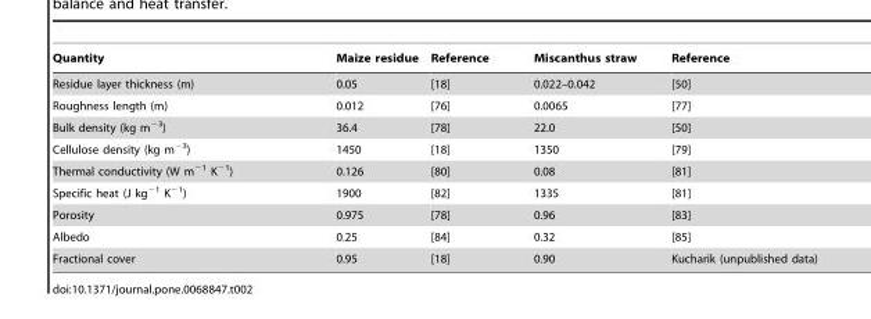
<table><thead><tr><td>Quantity</td><td>Maize residue</td><td>Reference</td><td>Miscanthus straw</td><td>Reference</td></tr></thead><tbody><tr><td>Residue layer thickness (m)</td><td>0.05</td><td>[18]</td><td>0.022–0.042</td><td>[50]</td></tr><tr><td>Roughness length (m)</td><td>0.012</td><td>[76]</td><td>0.0065</td><td>[77]</td></tr><tr><td>Bulk density (kg m<sup>−3</sup>)</td><td>36.4</td><td>[78]</td><td>22.0</td><td>[50]</td></tr><tr><td>Cellulose density (kg m<sup>−3</sup>)</td><td>1450</td><td>[18]</td><td>1350</td><td>[79]</td></tr><tr><td>Thermal conductivity (W m<sup>−1</sup> K<sup>−1</sup>)</td><td>0.126</td><td>[80]</td><td>0.08</td><td>[81]</td></tr><tr><td>Specific heat (J kg<sup>−1</sup> K<sup>−1</sup>)</td><td>1900</td><td>[82]</td><td>1335</td><td>[81]</td></tr><tr><td>Porosity</td><td>0.975</td><td>[78]</td><td>0.96</td><td>[83]</td></tr><tr><td>Albedo</td><td>0.25</td><td>[84]</td><td>0.32</td><td>[85]</td></tr><tr><td>Fractional cover</td><td>0.95</td><td>[18]</td><td>0.90</td><td>Kucharik (unpublished data)</td></tr></tbody></table>